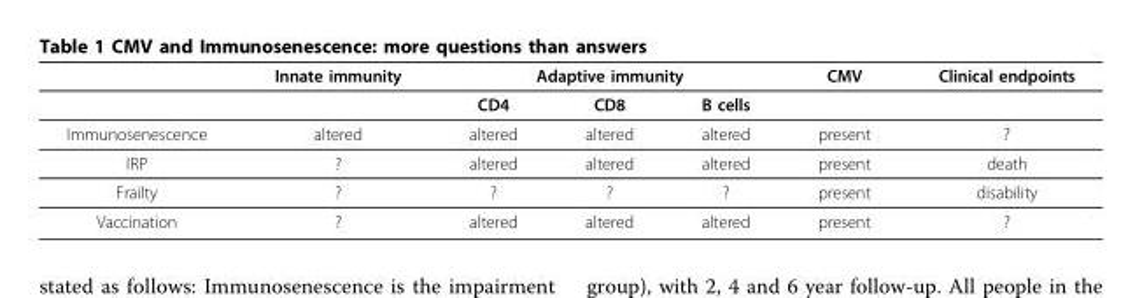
<table><thead><tr><td rowspan="2"></td><td rowspan="2">Innate immunity</td><td colspan="3">Adaptive immunity</td><td rowspan="2">CMV</td><td rowspan="2">Clinical endpoints</td></tr><tr><td>CD4</td><td>CD8</td><td>B cells</td></tr></thead><tbody><tr><td>Immunosenescence</td><td>altered</td><td>altered</td><td>altered</td><td>altered</td><td>present</td><td>?</td></tr><tr><td>IRP</td><td>?</td><td>altered</td><td>altered</td><td>altered</td><td>present</td><td>death</td></tr><tr><td>Frailty</td><td>?</td><td>?</td><td>?</td><td>?</td><td>present</td><td>disability</td></tr><tr><td>Vaccination</td><td>?</td><td>altered</td><td>altered</td><td>altered</td><td>present</td><td>?</td></tr></tbody></table>